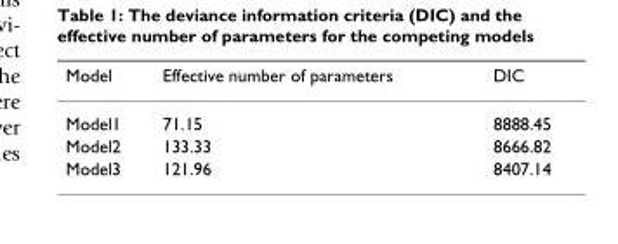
<table><thead><tr><td>Model</td><td>Effective number of parameters</td><td>DIC</td></tr></thead><tbody><tr><td>Model1</td><td>71.15</td><td>8888.45</td></tr><tr><td>Model2</td><td>133.33</td><td>8666.82</td></tr><tr><td>Model3</td><td>121.96</td><td>8407.14</td></tr></tbody></table>